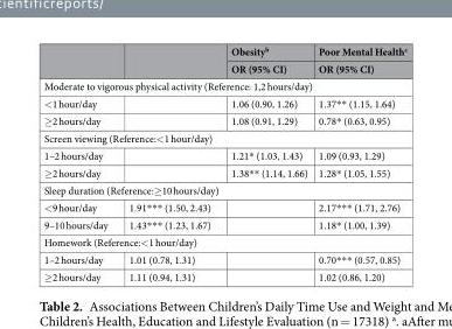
<table><thead><tr><td rowspan="2"></td><td rowspan="2"></td><td rowspan="2">Obesity<sup>b</sup> OR (95% CI)</td><td rowspan="2">Poor Mental Health<sup>c</sup> OR (95% CI)</td></tr><tr></tr></thead><tbody><tr><td colspan="4">Moderate to vigorous physical activity (Reference: 1,2 hours/day)</td></tr><tr><td>&lt;1 hour/day</td><td></td><td>1.06 (0.90, 1.26)</td><td>1.37** (1.15, 1.64)</td></tr><tr><td>≥2 hours/day</td><td></td><td>1.08 (0.91, 1.29)</td><td>0.78* (0.63, 0.95)</td></tr><tr><td colspan="4">Screen viewing (Reference:&lt;1 hour/day)</td></tr><tr><td>1–2 hours/day</td><td></td><td>1.21* (1.03, 1.43)</td><td>1.09 (0.93, 1.29)</td></tr><tr><td>≥2 hours/day</td><td></td><td>1.38** (1.14, 1.66)</td><td>1.28* (1.05, 1.55)</td></tr><tr><td colspan="4">Sleep duration (Reference:≥10 hours/day)</td></tr><tr><td>&lt;9 hour/day</td><td>1.91*** (1.50, 2.43)</td><td></td><td>2.17*** (1.71, 2.76)</td></tr><tr><td>9–10 hours/day</td><td>1.43*** (1.23, 1.67)</td><td></td><td>1.18* (1.00, 1.39)</td></tr><tr><td colspan="4">Homework (Reference:&lt;1 hour/day)</td></tr><tr><td>1–2 hours/day</td><td>1.01 (0.78, 1.31)</td><td></td><td>0.70*** (0.57, 0.85)</td></tr><tr><td>≥2 hours/day</td><td>1.11 (0.94, 1.31)</td><td></td><td>1.02 (0.86, 1.20)</td></tr></tbody></table>